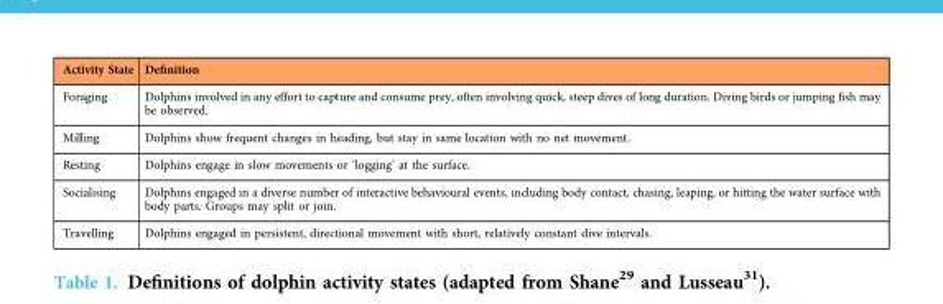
<table><thead><tr><td>Activity State</td><td>Definition</td></tr></thead><tbody><tr><td>Foraging</td><td>Dolphins involved in any effort to capture and consume prey, often involving quick, steep dives of long duration. Diving birds or jumping fish may be observed.</td></tr><tr><td>Milling</td><td>Dolphins show frequent changes in heading, but stay in same location with no net movement.</td></tr><tr><td>Resting</td><td>Dolphins engage in slow movements or ‘logging’ at the surface.</td></tr><tr><td>Socialising</td><td>Dolphins engaged in a diverse number of interactive behavioural events, including body contact, chasing, leaping, or hitting the water surface with body parts. Groups may split or join.</td></tr><tr><td>Travelling</td><td>Dolphins engaged in persistent, directional movement with short, relatively constant dive intervals.</td></tr></tbody></table>